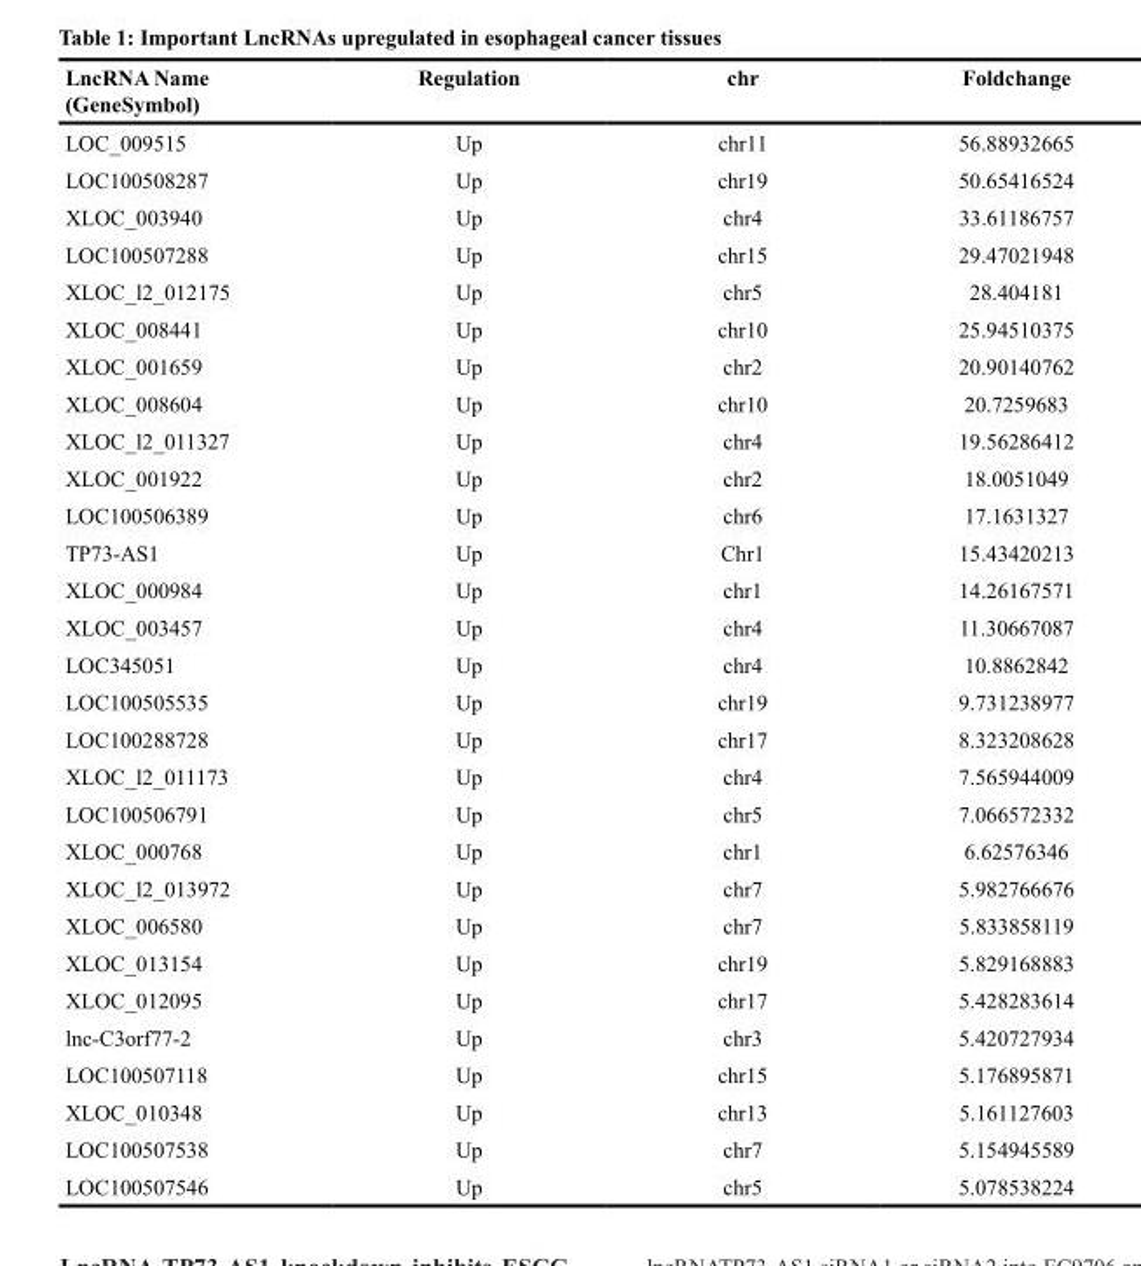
<table><thead><tr><td>LncRNA Name (GeneSymbol)</td><td>Regulation</td><td>chr</td><td>Foldchange</td></tr></thead><tbody><tr><td>LOC_009515</td><td>Up</td><td>chr11</td><td>56.88932665</td></tr><tr><td>LOC100508287</td><td>Up</td><td>chr19</td><td>50.65416524</td></tr><tr><td>XLOC_003940</td><td>Up</td><td>chr4</td><td>33.61186757</td></tr><tr><td>LOC100507288</td><td>Up</td><td>chr15</td><td>29.47021948</td></tr><tr><td>XLOC_l2_012175</td><td>Up</td><td>chr5</td><td>28.404181</td></tr><tr><td>XLOC_008441</td><td>Up</td><td>chr10</td><td>25.94510375</td></tr><tr><td>XLOC_001659</td><td>Up</td><td>chr2</td><td>20.90140762</td></tr><tr><td>XLOC_008604</td><td>Up</td><td>chr10</td><td>20.7259683</td></tr><tr><td>XLOC_l2_011327</td><td>Up</td><td>chr4</td><td>19.56286412</td></tr><tr><td>XLOC_001922</td><td>Up</td><td>chr2</td><td>18.0051049</td></tr><tr><td>LOC100506389</td><td>Up</td><td>chr6</td><td>17.1631327</td></tr><tr><td>TP73-AS1</td><td>Up</td><td>Chr1</td><td>15.43420213</td></tr><tr><td>XLOC_000984</td><td>Up</td><td>chr1</td><td>14.26167571</td></tr><tr><td>XLOC_003457</td><td>Up</td><td>chr4</td><td>11.30667087</td></tr><tr><td>LOC345051</td><td>Up</td><td>chr4</td><td>10.8862842</td></tr><tr><td>LOC100505535</td><td>Up</td><td>chr19</td><td>9.731238977</td></tr><tr><td>LOC100288728</td><td>Up</td><td>chr17</td><td>8.323208628</td></tr><tr><td>XLOC_l2_011173</td><td>Up</td><td>chr4</td><td>7.565944009</td></tr><tr><td>LOC100506791</td><td>Up</td><td>chr5</td><td>7.066572332</td></tr><tr><td>XLOC_000768</td><td>Up</td><td>chr1</td><td>6.62576346</td></tr><tr><td>XLOC_l2_013972</td><td>Up</td><td>chr7</td><td>5.982766676</td></tr><tr><td>XLOC_006580</td><td>Up</td><td>chr7</td><td>5.833858119</td></tr><tr><td>XLOC_013154</td><td>Up</td><td>chr19</td><td>5.829168883</td></tr><tr><td>XLOC_012095</td><td>Up</td><td>chr17</td><td>5.428283614</td></tr><tr><td>lnc-C3orf77-2</td><td>Up</td><td>chr3</td><td>5.420727934</td></tr><tr><td>LOC100507118</td><td>Up</td><td>chr15</td><td>5.176895871</td></tr><tr><td>XLOC_010348</td><td>Up</td><td>chr13</td><td>5.161127603</td></tr><tr><td>LOC100507538</td><td>Up</td><td>chr7</td><td>5.154945589</td></tr><tr><td>LOC100507546</td><td>Up</td><td>chr5</td><td>5.078538224</td></tr></tbody></table>